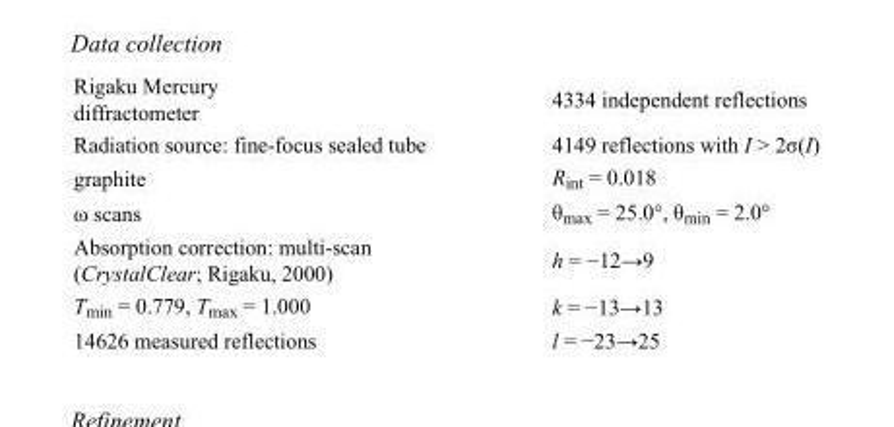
<table><tbody><tr><td>Rigaku Mercury diffractometer</td><td>4334 independent reflections</td></tr><tr><td>Radiation source: fine-focus sealed tube</td><td>4149 reflections with I &gt; 2σ(I)</td></tr><tr><td>graphite</td><td>R<sub>int</sub> = 0.018</td></tr><tr><td>ω scans</td><td>θ<sub>max</sub> = 25.0°, θ<sub>min</sub> = 2.0°</td></tr><tr><td>Absorption correction: multi-scan (CrystalClear; Rigaku, 2000)</td><td>h = −12→9</td></tr><tr><td>T<sub>min</sub> = 0.779, T<sub>max</sub> = 1.000</td><td>k = −13→13</td></tr><tr><td>14626 measured reflections</td><td>l = −23→25</td></tr></tbody></table>